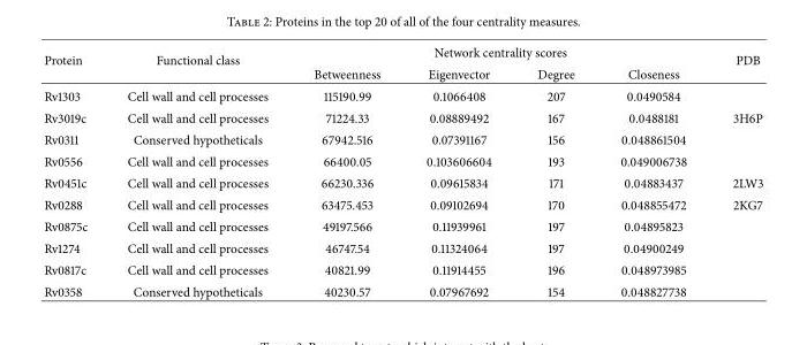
<table><thead><tr><td rowspan="2">Protein</td><td rowspan="2">Functional class</td><td colspan="4">Network centrality scores</td><td rowspan="2">PDB</td></tr><tr><td>Betweenness</td><td>Eigenvector</td><td>Degree</td><td>Closeness</td></tr></thead><tbody><tr><td>Rv1303</td><td>Cell wall and cell processes</td><td>115190.99</td><td>0.1066408</td><td>207</td><td>0.0490584</td><td></td></tr><tr><td>Rv3019c</td><td>Cell wall and cell processes</td><td>71224.33</td><td>0.08889492</td><td>167</td><td>0.0488181</td><td>3H6P</td></tr><tr><td>Rv0311</td><td>Conserved hypotheticals</td><td>67942.516</td><td>0.07391167</td><td>156</td><td>0.048861504</td><td></td></tr><tr><td>Rv0556</td><td>Cell wall and cell processes</td><td>66400.05</td><td>0.103606604</td><td>193</td><td>0.049006738</td><td></td></tr><tr><td>Rv0451c</td><td>Cell wall and cell processes</td><td>66230.336</td><td>0.09615834</td><td>171</td><td>0.04883437</td><td>2LW3</td></tr><tr><td>Rv0288</td><td>Cell wall and cell processes</td><td>63475.453</td><td>0.09102694</td><td>170</td><td>0.048855472</td><td>2KG7</td></tr><tr><td>Rv0875c</td><td>Cell wall and cell processes</td><td>49197.566</td><td>0.11939961</td><td>197</td><td>0.04895823</td><td></td></tr><tr><td>Rv1274</td><td>Cell wall and cell processes</td><td>46747.54</td><td>0.11324064</td><td>197</td><td>0.04900249</td><td></td></tr><tr><td>Rv0817c</td><td>Cell wall and cell processes</td><td>40821.99</td><td>0.11914455</td><td>196</td><td>0.048973985</td><td></td></tr><tr><td>Rv0358</td><td>Conserved hypotheticals</td><td>40230.57</td><td>0.07967692</td><td>154</td><td>0.048827738</td><td></td></tr></tbody></table>